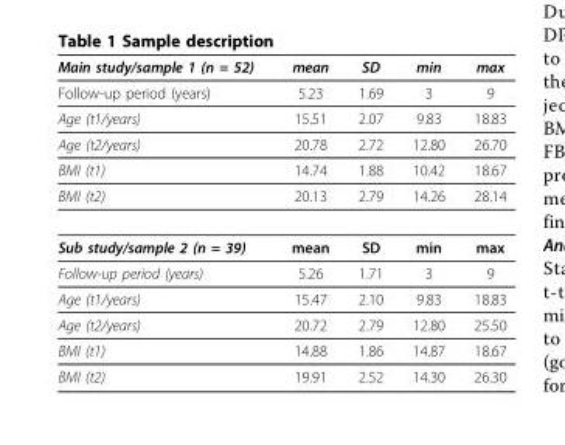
<table><thead><tr><td>Main study/sample 1 (n = 52)</td><td>mean</td><td>SD</td><td>min</td><td>max</td></tr></thead><tbody><tr><td>Follow-up period (years)</td><td>5.23</td><td>1.69</td><td>3</td><td>9</td></tr><tr><td>Age (t1/years)</td><td>15.51</td><td>2.07</td><td>9.83</td><td>18.83</td></tr><tr><td>Age (t2/years)</td><td>20.78</td><td>2.72</td><td>12.80</td><td>26.70</td></tr><tr><td>BMI (t1)</td><td>14.74</td><td>1.88</td><td>10.42</td><td>18.67</td></tr><tr><td>BMI (t2)</td><td>20.13</td><td>2.79</td><td>14.26</td><td>28.14</td></tr><tr><td>Sub study/sample 2 (n = 39)</td><td>mean</td><td>SD</td><td>min</td><td>max</td></tr><tr><td>Follow-up period (years)</td><td>5.26</td><td>1.71</td><td>3</td><td>9</td></tr><tr><td>Age (t1/years)</td><td>15.47</td><td>2.10</td><td>9.83</td><td>18.83</td></tr><tr><td>Age (t2/years)</td><td>20.72</td><td>2.79</td><td>12.80</td><td>25.50</td></tr><tr><td>BMI (t1)</td><td>14.88</td><td>1.86</td><td>14.87</td><td>18.67</td></tr><tr><td>BMI (t2)</td><td>19.91</td><td>2.52</td><td>14.30</td><td>26.30</td></tr></tbody></table>